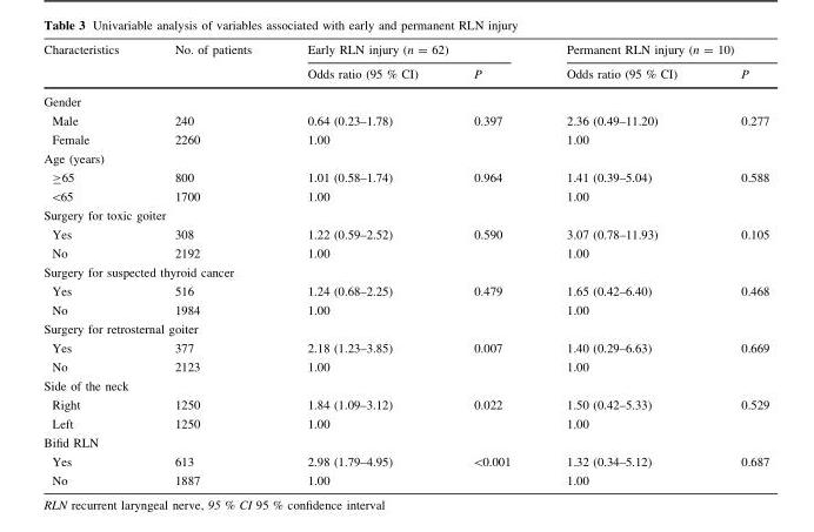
<table><thead><tr><td rowspan="2">Characteristics</td><td rowspan="2">No. of patients</td><td colspan="2">Early RLN injury (n = 62)</td><td colspan="2">Permanent RLN injury (n = 10)</td></tr><tr><td>Odds ratio (95 % CI)</td><td>P</td><td>Odds ratio (95 % CI)</td><td>P</td></tr></thead><tbody><tr><td colspan="6">Gender</td></tr><tr><td>Male</td><td>240</td><td>0.64 (0.23–1.78)</td><td rowspan="2">0.397</td><td>2.36 (0.49–11.20)</td><td rowspan="2">0.277</td></tr><tr><td>Female</td><td>2260</td><td>1.00</td><td>1.00</td></tr><tr><td colspan="6">Age (years)</td></tr><tr><td>≥65</td><td>800</td><td>1.01 (0.58–1.74)</td><td>0.964</td><td>1.41 (0.39–5.04)</td><td>0.588</td></tr><tr><td>&lt;65</td><td>1700</td><td>1.00</td><td></td><td>1.00</td><td></td></tr><tr><td colspan="6">Surgery for toxic goiter</td></tr><tr><td>Yes</td><td>308</td><td>1.22 (0.59–2.52)</td><td>0.590</td><td>3.07 (0.78–11.93)</td><td>0.105</td></tr><tr><td>No</td><td>2192</td><td>1.00</td><td></td><td>1.00</td><td></td></tr><tr><td colspan="6">Surgery for suspected thyroid cancer</td></tr><tr><td>Yes</td><td>516</td><td>1.24 (0.68–2.25)</td><td>0.479</td><td>1.65 (0.42–6.40)</td><td>0.468</td></tr><tr><td>No</td><td>1984</td><td>1.00</td><td></td><td>1.00</td><td></td></tr><tr><td colspan="6">Surgery for retrosternal goiter</td></tr><tr><td>Yes</td><td>377</td><td>2.18 (1.23–3.85)</td><td>0.007</td><td>1.40 (0.29–6.63)</td><td>0.669</td></tr><tr><td>No</td><td>2123</td><td>1.00</td><td></td><td>1.00</td><td></td></tr><tr><td colspan="6">Side of the neck</td></tr><tr><td>Right</td><td>1250</td><td>1.84 (1.09–3.12)</td><td>0.022</td><td>1.50 (0.42–5.33)</td><td>0.529</td></tr><tr><td>Left</td><td>1250</td><td>1.00</td><td></td><td>1.00</td><td></td></tr><tr><td colspan="6">Bifid RLN</td></tr><tr><td>Yes</td><td>613</td><td>2.98 (1.79–4.95)</td><td>&lt;0.001</td><td>1.32 (0.34–5.12)</td><td>0.687</td></tr><tr><td>No</td><td>1887</td><td>1.00</td><td></td><td>1.00</td><td></td></tr></tbody></table>